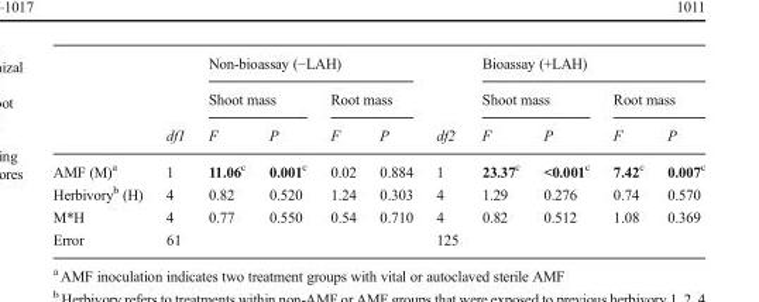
<table><thead><tr><td rowspan="3"></td><td rowspan="3">df1</td><td colspan="4">Non-bioassay (−LAH)</td><td rowspan="3">df2</td><td colspan="4">Bioassay (+LAH)</td></tr><tr><td colspan="2">Shoot mass</td><td colspan="2">Root mass</td><td colspan="2">Shoot mass</td><td colspan="2">Root mass</td></tr><tr><td>F</td><td>P</td><td>F</td><td>P</td><td>F</td><td>P</td><td>F</td><td>P</td></tr></thead><tbody><tr><td>AMF (M)<sup>a</sup></td><td>1</td><td>11.06<sup>c</sup></td><td>0.001<sup>c</sup></td><td>0.02</td><td>0.884</td><td>1</td><td>23.37<sup>c</sup></td><td>&lt;0.001<sup>c</sup></td><td>7.42<sup>c</sup></td><td>0.007<sup>c</sup></td></tr><tr><td>Herbivory<sup>b</sup> (H)</td><td>4</td><td>0.82</td><td>0.520</td><td>1.24</td><td>0.303</td><td>4</td><td>1.29</td><td>0.276</td><td>0.74</td><td>0.570</td></tr><tr><td>M*H</td><td>4</td><td>0.77</td><td>0.550</td><td>0.54</td><td>0.710</td><td>4</td><td>0.82</td><td>0.512</td><td>1.08</td><td>0.369</td></tr><tr><td>Error</td><td>61</td><td></td><td></td><td></td><td></td><td>125</td><td></td><td></td><td></td><td></td></tr></tbody></table>